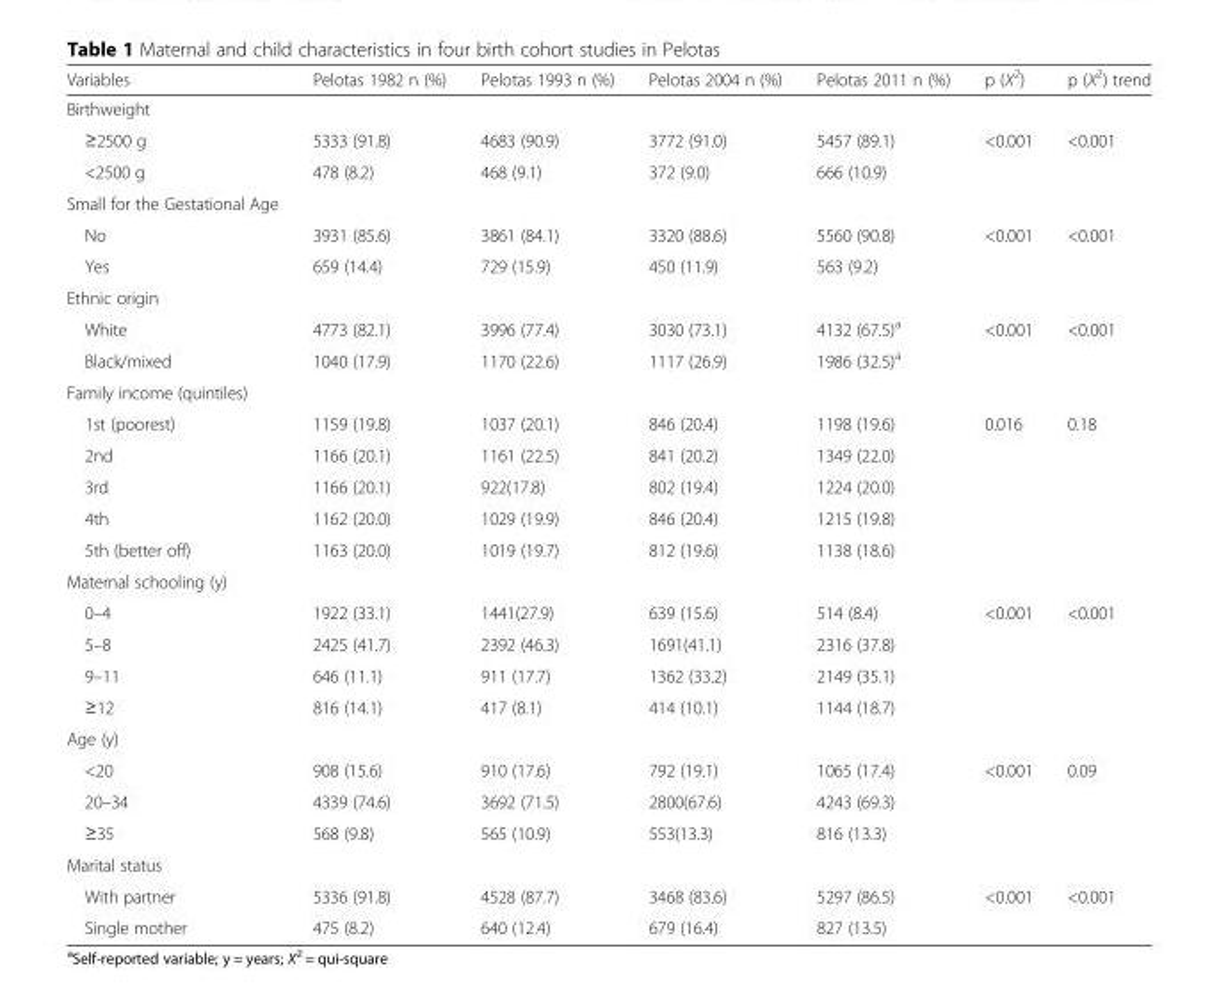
<table><thead><tr><td>Variables</td><td>Pelotas 1982 n (%)</td><td>Pelotas 1993 n (%)</td><td>Pelotas 2004 n (%)</td><td>Pelotas 2011 n (%)</td><td>p (X<sup>2</sup>)</td><td>p (X<sup>2</sup>) trend</td></tr></thead><tbody><tr><td colspan="7">Birthweight</td></tr><tr><td>≥2500 g</td><td>5333 (91.8)</td><td>4683 (90.9)</td><td>3772 (91.0)</td><td>5457 (89.1)</td><td>&lt;0.001</td><td>&lt;0.001</td></tr><tr><td>&lt;2500 g</td><td>478 (8.2)</td><td>468 (9.1)</td><td>372 (9.0)</td><td>666 (10.9)</td><td></td><td></td></tr><tr><td colspan="7">Small for the Gestational Age</td></tr><tr><td>No</td><td>3931 (85.6)</td><td>3861 (84.1)</td><td>3320 (88.6)</td><td>5560 (90.8)</td><td>&lt;0.001</td><td>&lt;0.001</td></tr><tr><td>Yes</td><td>659 (14.4)</td><td>729 (15.9)</td><td>450 (11.9)</td><td>563 (9.2)</td><td></td><td></td></tr><tr><td colspan="7">Ethnic origin</td></tr><tr><td>White</td><td>4773 (82.1)</td><td>3996 (77.4)</td><td>3030 (73.1)</td><td>4132 (67.5)<sup>a</sup></td><td>&lt;0.001</td><td>&lt;0.001</td></tr><tr><td>Black/mixed</td><td>1040 (17.9)</td><td>1170 (22.6)</td><td>1117 (26.9)</td><td>1986 (32.5)<sup>a</sup></td><td></td><td></td></tr><tr><td colspan="7">Family income (quintiles)</td></tr><tr><td>1st (poorest)</td><td>1159 (19.8)</td><td>1037 (20.1)</td><td>846 (20.4)</td><td>1198 (19.6)</td><td>0.016</td><td>0.18</td></tr><tr><td>2nd</td><td>1166 (20.1)</td><td>1161 (22.5)</td><td>841 (20.2)</td><td>1349 (22.0)</td><td></td><td></td></tr><tr><td>3rd</td><td>1166 (20.1)</td><td>922(17.8)</td><td>802 (19.4)</td><td>1224 (20.0)</td><td></td><td></td></tr><tr><td>4th</td><td>1162 (20.0)</td><td>1029 (19.9)</td><td>846 (20.4)</td><td>1215 (19.8)</td><td></td><td></td></tr><tr><td>5th (better off)</td><td>1163 (20.0)</td><td>1019 (19.7)</td><td>812 (19.6)</td><td>1138 (18.6)</td><td></td><td></td></tr><tr><td colspan="7">Maternal schooling (y)</td></tr><tr><td>0–4</td><td>1922 (33.1)</td><td>1441(27.9)</td><td>639 (15.6)</td><td>514 (8.4)</td><td>&lt;0.001</td><td>&lt;0.001</td></tr><tr><td>5–8</td><td>2425 (41.7)</td><td>2392 (46.3)</td><td>1691(41.1)</td><td>2316 (37.8)</td><td></td><td></td></tr><tr><td>9–11</td><td>646 (11.1)</td><td>911 (17.7)</td><td>1362 (33.2)</td><td>2149 (35.1)</td><td></td><td></td></tr><tr><td>≥12</td><td>816 (14.1)</td><td>417 (8.1)</td><td>414 (10.1)</td><td>1144 (18.7)</td><td></td><td></td></tr><tr><td colspan="7">Age (y)</td></tr><tr><td>&lt;20</td><td>908 (15.6)</td><td>910 (17.6)</td><td>792 (19.1)</td><td>1065 (17.4)</td><td>&lt;0.001</td><td>0.09</td></tr><tr><td>20–34</td><td>4339 (74.6)</td><td>3692 (71.5)</td><td>2800(67.6)</td><td>4243 (69.3)</td><td></td><td></td></tr><tr><td>≥35</td><td>568 (9.8)</td><td>565 (10.9)</td><td>553(13.3)</td><td>816 (13.3)</td><td></td><td></td></tr><tr><td colspan="7">Marital status</td></tr><tr><td>With partner</td><td>5336 (91.8)</td><td>4528 (87.7)</td><td>3468 (83.6)</td><td>5297 (86.5)</td><td>&lt;0.001</td><td>&lt;0.001</td></tr><tr><td>Single mother</td><td>475 (8.2)</td><td>640 (12.4)</td><td>679 (16.4)</td><td>827 (13.5)</td><td></td><td></td></tr></tbody></table>